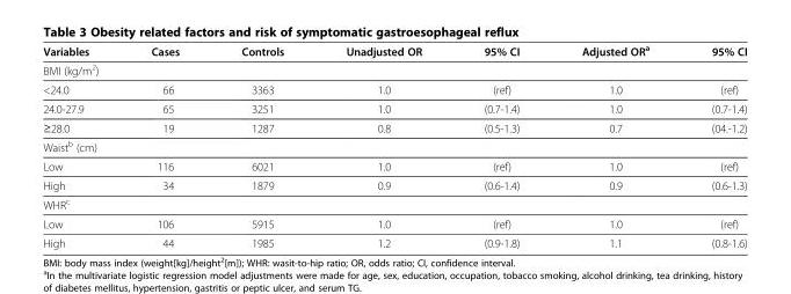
<table><thead><tr><td>Variables</td><td>Cases</td><td>Controls</td><td>Unadjusted OR</td><td>95% CI</td><td>Adjusted OR<sup>a</sup></td><td>95% CI</td></tr></thead><tbody><tr><td colspan="7">BMI (kg/m<sup>2</sup>)</td></tr><tr><td>&lt;24.0</td><td>66</td><td>3363</td><td>1.0</td><td>(ref)</td><td>1.0</td><td>(ref)</td></tr><tr><td>24.0-27.9</td><td>65</td><td>3251</td><td>1.0</td><td>(0.7-1.4)</td><td>1.0</td><td>(0.7-1.4)</td></tr><tr><td>≥28.0</td><td>19</td><td>1287</td><td>0.8</td><td>(0.5-1.3)</td><td>0.7</td><td>(04.-1.2)</td></tr><tr><td colspan="7">Waist<sup>b</sup> (cm)</td></tr><tr><td>Low</td><td>116</td><td>6021</td><td>1.0</td><td>(ref)</td><td>1.0</td><td>(ref)</td></tr><tr><td>High</td><td>34</td><td>1879</td><td>0.9</td><td>(0.6-1.4)</td><td>0.9</td><td>(0.6-1.3)</td></tr><tr><td colspan="7">WHR<sup>c</sup></td></tr><tr><td>Low</td><td>106</td><td>5915</td><td>1.0</td><td>(ref)</td><td>1.0</td><td>(ref)</td></tr><tr><td>High</td><td>44</td><td>1985</td><td>1.2</td><td>(0.9-1.8)</td><td>1.1</td><td>(0.8-1.6)</td></tr></tbody></table>